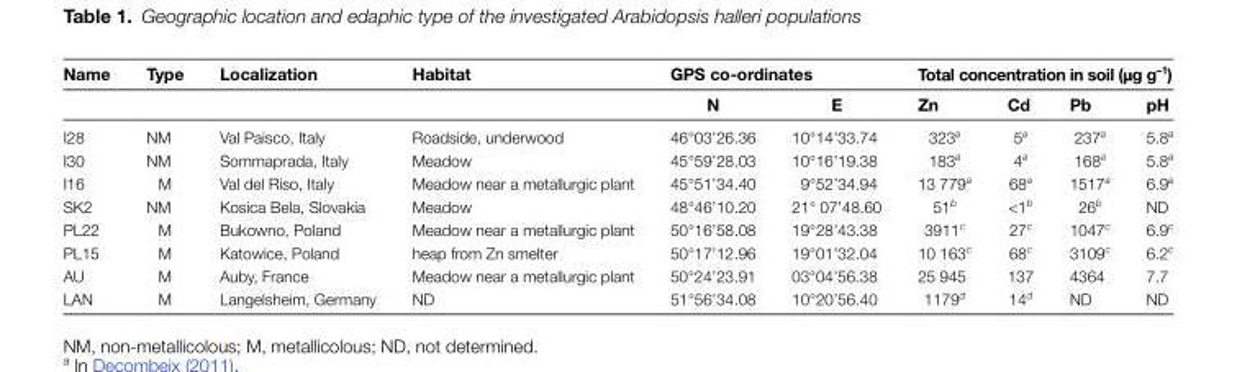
<table><thead><tr><td rowspan="2">Name</td><td rowspan="2">Type</td><td rowspan="2">Localization</td><td rowspan="2">Habitat</td><td colspan="2">GPS co-ordinates</td><td colspan="4">Total concentration in soil (μg g<sup>–1</sup>)</td></tr><tr><td>N</td><td>E</td><td>Zn</td><td>Cd</td><td>Pb</td><td>pH</td></tr></thead><tbody><tr><td>I28</td><td>NM</td><td>Val Paisco, Italy</td><td>Roadside, underwood</td><td>46°03’26.36</td><td>10°14’33.74</td><td>323<sup>a</sup></td><td>5<sup>a</sup></td><td>237<sup>a</sup></td><td>5.8<sup>a</sup></td></tr><tr><td>I30</td><td>NM</td><td>Sommaprada, Italy</td><td>Meadow</td><td>45°59’28.03</td><td>10°16’19.38</td><td>183<sup>a</sup></td><td>4<sup>a</sup></td><td>168<sup>a</sup></td><td>5.8<sup>a</sup></td></tr><tr><td>I16</td><td>M</td><td>Val del Riso, Italy</td><td>Meadow near a metallurgic plant</td><td>45°51’34.40</td><td>9°52’34.94</td><td>13 779<sup>a</sup></td><td>68<sup>a</sup></td><td>1517<sup>a</sup></td><td>6.9<sup>a</sup></td></tr><tr><td>SK2</td><td>NM</td><td>Kosica Bela, Slovakia</td><td>Meadow</td><td>48°46’10.20</td><td>21° 07’48.60</td><td>51<sup>b</sup></td><td>&lt;1<sup>b</sup></td><td>26<sup>b</sup></td><td>ND</td></tr><tr><td>PL22</td><td>M</td><td>Bukowno, Poland</td><td>Meadow near a metallurgic plant</td><td>50°16’58.08</td><td>19°28’43.38</td><td>3911<sup>c</sup></td><td>27<sup>c</sup></td><td>1047<sup>c</sup></td><td>6.9<sup>c</sup></td></tr><tr><td>PL15</td><td>M</td><td>Katowice, Poland</td><td>heap from Zn smelter</td><td>50°17’12.96</td><td>19°01’32.04</td><td>10 163<sup>c</sup></td><td>68<sup>c</sup></td><td>3109<sup>c</sup></td><td>6.2<sup>c</sup></td></tr><tr><td>AU</td><td>M</td><td>Auby, France</td><td>Meadow near a metallurgic plant</td><td>50°24’23.91</td><td>03°04’56.38</td><td>25 945</td><td>137</td><td>4364</td><td>7.7</td></tr><tr><td>LAN</td><td>M</td><td>Langelsheim, Germany</td><td>ND</td><td>51°56’34.08</td><td>10°20’56.40</td><td>1179<sup>d</sup></td><td>14<sup>d</sup></td><td>ND</td><td>ND</td></tr></tbody></table>